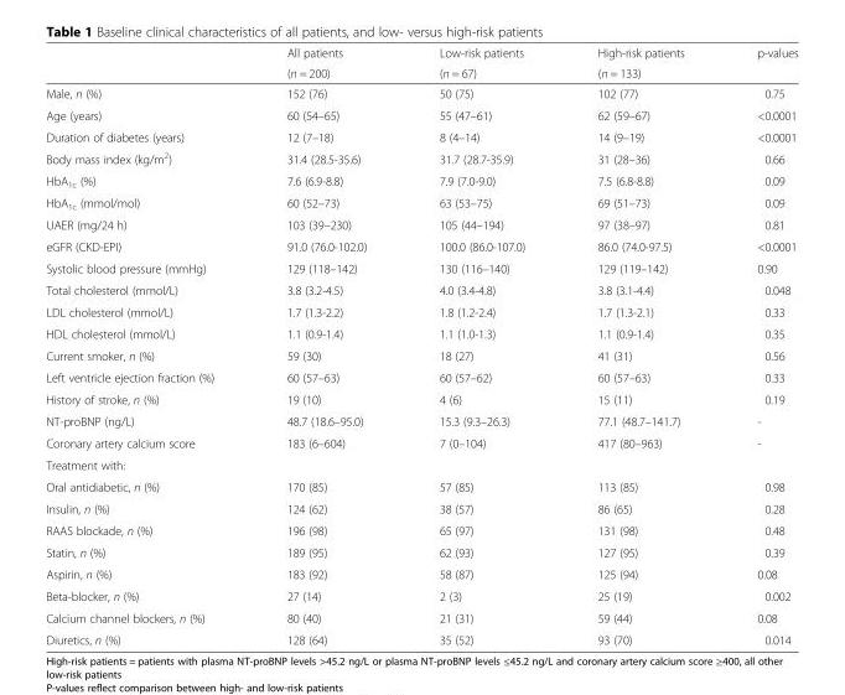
<table><thead><tr><td rowspan="2"></td><td rowspan="2">All patients (n = 200)</td><td rowspan="2">Low-risk patients (n = 67)</td><td rowspan="2">High-risk patients (n = 133)</td><td rowspan="2">p-values</td></tr><tr></tr></thead><tbody><tr><td>Male, n (%)</td><td>152 (76)</td><td>50 (75)</td><td>102 (77)</td><td>0.75</td></tr><tr><td>Age (years)</td><td>60 (54–65)</td><td>55 (47–61)</td><td>62 (59–67)</td><td>&lt;0.0001</td></tr><tr><td>Duration of diabetes (years)</td><td>12 (7–18)</td><td>8 (4–14)</td><td>14 (9–19)</td><td>&lt;0.0001</td></tr><tr><td>Body mass index (kg/m<sup>2</sup>)</td><td>31.4 (28.5-35.6)</td><td>31.7 (28.7-35.9)</td><td>31 (28–36)</td><td>0.66</td></tr><tr><td>HbA<sub>1c</sub> (%)</td><td>7.6 (6.9-8.8)</td><td>7.9 (7.0-9.0)</td><td>7.5 (6.8-8.8)</td><td>0.09</td></tr><tr><td>HbA<sub>1c</sub> (mmol/mol)</td><td>60 (52–73)</td><td>63 (53–75)</td><td>69 (51–73)</td><td>0.09</td></tr><tr><td>UAER (mg/24 h)</td><td>103 (39–230)</td><td>105 (44–194)</td><td>97 (38–97)</td><td>0.81</td></tr><tr><td>eGFR (CKD-EPI)</td><td>91.0 (76.0-102.0)</td><td>100.0 (86.0-107.0)</td><td>86.0 (74.0-97.5)</td><td>&lt;0.0001</td></tr><tr><td>Systolic blood pressure (mmHg)</td><td>129 (118–142)</td><td>130 (116–140)</td><td>129 (119–142)</td><td>0.90</td></tr><tr><td>Total cholesterol (mmol/L)</td><td>3.8 (3.2-4.5)</td><td>4.0 (3.4-4.8)</td><td>3.8 (3.1-4.4)</td><td>0.048</td></tr><tr><td>LDL cholesterol (mmol/L)</td><td>1.7 (1.3-2.2)</td><td>1.8 (1.2-2.4)</td><td>1.7 (1.3-2.1)</td><td>0.33</td></tr><tr><td>HDL cholesterol (mmol/L)</td><td>1.1 (0.9-1.4)</td><td>1.1 (1.0-1.3)</td><td>1.1 (0.9-1.4)</td><td>0.35</td></tr><tr><td>Current smoker, n (%)</td><td>59 (30)</td><td>18 (27)</td><td>41 (31)</td><td>0.56</td></tr><tr><td>Left ventricle ejection fraction (%)</td><td>60 (57–63)</td><td>60 (57–62)</td><td>60 (57–63)</td><td>0.33</td></tr><tr><td>History of stroke, n (%)</td><td>19 (10)</td><td>4 (6)</td><td>15 (11)</td><td>0.19</td></tr><tr><td>NT-proBNP (ng/L)</td><td>48.7 (18.6–95.0)</td><td>15.3 (9.3–26.3)</td><td>77.1 (48.7–141.7)</td><td>-</td></tr><tr><td>Coronary artery calcium score</td><td>183 (6–604)</td><td>7 (0–104)</td><td>417 (80–963)</td><td>-</td></tr><tr><td colspan="5">Treatment with:</td></tr><tr><td>Oral antidiabetic, n (%)</td><td>170 (85)</td><td>57 (85)</td><td>113 (85)</td><td>0.98</td></tr><tr><td>Insulin, n (%)</td><td>124 (62)</td><td>38 (57)</td><td>86 (65)</td><td>0.28</td></tr><tr><td>RAAS blockade, n (%)</td><td>196 (98)</td><td>65 (97)</td><td>131 (98)</td><td>0.48</td></tr><tr><td>Statin, n (%)</td><td>189 (95)</td><td>62 (93)</td><td>127 (95)</td><td>0.39</td></tr><tr><td>Aspirin, n (%)</td><td>183 (92)</td><td>58 (87)</td><td>125 (94)</td><td>0.08</td></tr><tr><td>Beta-blocker, n (%)</td><td>27 (14)</td><td>2 (3)</td><td>25 (19)</td><td>0.002</td></tr><tr><td>Calcium channel blockers, n (%)</td><td>80 (40)</td><td>21 (31)</td><td>59 (44)</td><td>0.08</td></tr><tr><td>Diuretics, n (%)</td><td>128 (64)</td><td>35 (52)</td><td>93 (70)</td><td>0.014</td></tr></tbody></table>